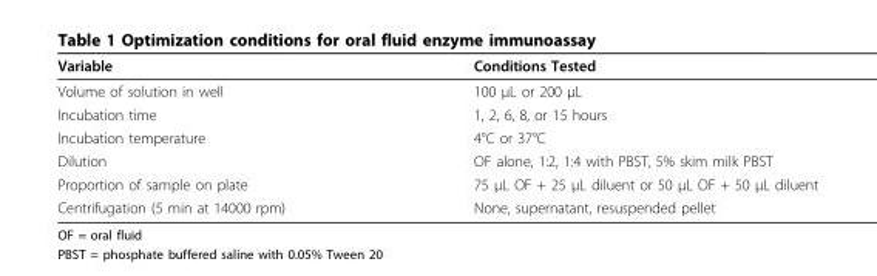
<table><thead><tr><td>Variable</td><td>Conditions Tested</td></tr></thead><tbody><tr><td>Volume of solution in well</td><td>100 μL or 200 μL</td></tr><tr><td>Incubation time</td><td>1, 2, 6, 8, or 15 hours</td></tr><tr><td>Incubation temperature</td><td>4°C or 37°C</td></tr><tr><td>Dilution</td><td>OF alone, 1:2, 1:4 with PBST, 5% skim milk PBST</td></tr><tr><td>Proportion of sample on plate</td><td>75 μL OF + 25 μL diluent or 50 μL OF + 50 μL diluent</td></tr><tr><td>Centrifugation (5 min at 14000 rpm)</td><td>None, supernatant, resuspended pellet</td></tr></tbody></table>